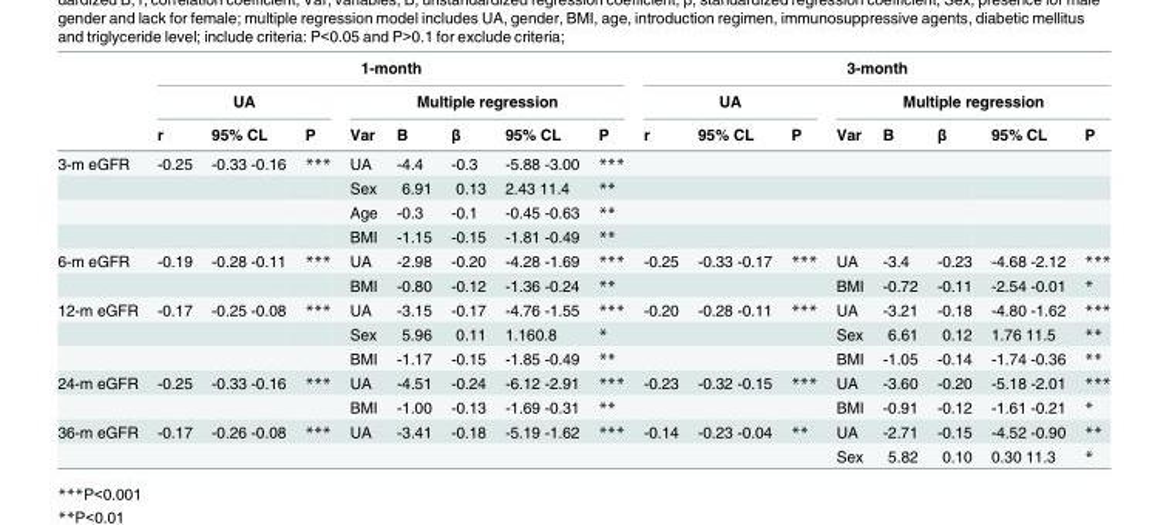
<table><thead><tr><td rowspan="3"></td><td colspan="8">1-month</td><td colspan="8">3-month</td></tr><tr><td colspan="3">UA</td><td colspan="5">Multiple regression</td><td colspan="3">UA</td><td colspan="5">Multiple regression</td></tr><tr><td>r</td><td>95% CL</td><td>P</td><td>Var</td><td>B</td><td>β</td><td>95% CL</td><td>P</td><td>r</td><td>95% CL</td><td>P</td><td>Var</td><td>B</td><td>β</td><td>95% CL</td><td>P</td></tr></thead><tbody><tr><td rowspan="4">3-m eGFR</td><td>-0.25</td><td>-0.33 -0.16</td><td>***</td><td>UA</td><td>-4.4</td><td>-0.3</td><td>-5.88 -3.00</td><td>***</td><td></td><td></td><td></td><td></td><td></td><td></td><td></td><td></td></tr><tr><td></td><td></td><td></td><td>Sex</td><td>6.91</td><td>0.13</td><td>2.43 11.4</td><td>**</td><td></td><td></td><td></td><td></td><td></td><td></td><td></td><td></td></tr><tr><td></td><td></td><td></td><td>Age</td><td>-0.3</td><td>-0.1</td><td>-0.45 -0.63</td><td>**</td><td></td><td></td><td></td><td></td><td></td><td></td><td></td><td></td></tr><tr><td></td><td></td><td></td><td>BMI</td><td>-1.15</td><td>-0.15</td><td>-1.81 -0.49</td><td>**</td><td></td><td></td><td></td><td></td><td></td><td></td><td></td><td></td></tr><tr><td rowspan="2">6-m eGFR</td><td>-0.19</td><td>-0.28 -0.11</td><td>***</td><td>UA</td><td>-2.98</td><td>-0.20</td><td>-4.28 -1.69</td><td>***</td><td>-0.25</td><td>-0.33 -0.17</td><td>***</td><td>UA</td><td>-3.4</td><td>-0.23</td><td>-4.68 -2.12</td><td>***</td></tr><tr><td></td><td></td><td></td><td>BMI</td><td>-0.80</td><td>-0.12</td><td>-1.36 -0.24</td><td>**</td><td></td><td></td><td></td><td>BMI</td><td>-0.72</td><td>-0.11</td><td>-2.54 -0.01</td><td>*</td></tr><tr><td rowspan="3">12-m eGFR</td><td>-0.17</td><td>-0.25 -0.08</td><td>***</td><td>UA</td><td>-3.15</td><td>-0.17</td><td>-4.76 -1.55</td><td>***</td><td>-0.20</td><td>-0.28 -0.11</td><td>***</td><td>UA</td><td>-3.21</td><td>-0.18</td><td>-4.80 -1.62</td><td>***</td></tr><tr><td></td><td></td><td></td><td>Sex</td><td>5.96</td><td>0.11</td><td>1.160.8</td><td>*</td><td></td><td></td><td></td><td>Sex</td><td>6.61</td><td>0.12</td><td>1.76 11.5</td><td>**</td></tr><tr><td></td><td></td><td></td><td>BMI</td><td>-1.17</td><td>-0.15</td><td>-1.85 -0.49</td><td>**</td><td></td><td></td><td></td><td>BMI</td><td>-1.05</td><td>-0.14</td><td>-1.74 -0.36</td><td>**</td></tr><tr><td rowspan="2">24-m eGFR</td><td>-0.25</td><td>-0.33 -0.16</td><td>***</td><td>UA</td><td>-4.51</td><td>-0.24</td><td>-6.12 -2.91</td><td>***</td><td>-0.23</td><td>-0.32 -0.15</td><td>***</td><td>UA</td><td>-3.60</td><td>-0.20</td><td>-5.18 -2.01</td><td>***</td></tr><tr><td></td><td></td><td></td><td>BMI</td><td>-1.00</td><td>-0.13</td><td>-1.69 -0.31</td><td>**</td><td></td><td></td><td></td><td>BMI</td><td>-0.91</td><td>-0.12</td><td>-1.61 -0.21</td><td>*</td></tr><tr><td rowspan="2">36-m eGFR</td><td>-0.17</td><td>-0.26 -0.08</td><td>***</td><td>UA</td><td>-3.41</td><td>-0.18</td><td>-5.19 -1.62</td><td>***</td><td>-0.14</td><td>-0.23 -0.04</td><td>**</td><td>UA</td><td>-2.71</td><td>-0.15</td><td>-4.52 -0.90</td><td>**</td></tr><tr><td></td><td></td><td></td><td></td><td></td><td></td><td></td><td></td><td></td><td></td><td></td><td>Sex</td><td>5.82</td><td>0.10</td><td>0.30 11.3</td><td>*</td></tr></tbody></table>